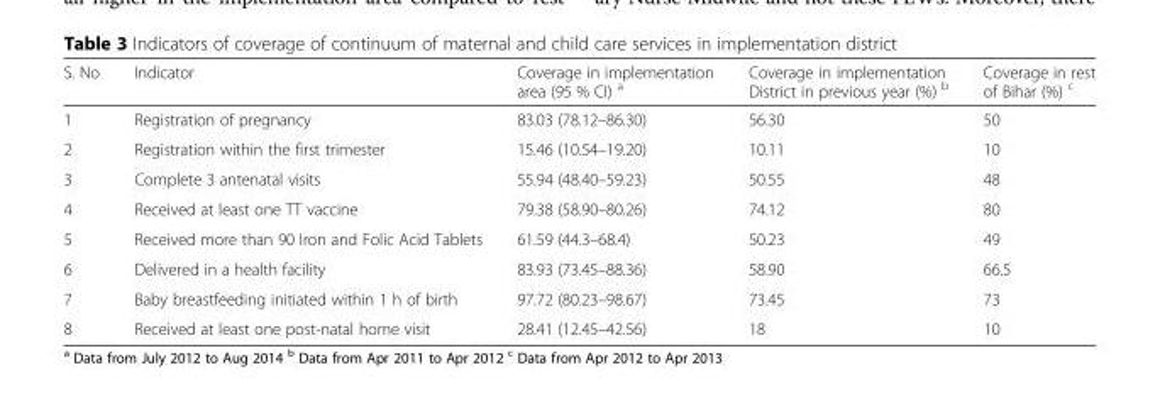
<table><thead><tr><td>S. No</td><td>Indicator</td><td>Coverage in implementation area (95 % CI) <sup>a</sup></td><td>Coverage in implementation District in previous year (%) <sup>b</sup></td><td>Coverage in rest of Bihar (%) <sup>c</sup></td></tr></thead><tbody><tr><td>1</td><td>Registration of pregnancy</td><td>83.03 (78.12–86.30)</td><td>56.30</td><td>50</td></tr><tr><td>2</td><td>Registration within the first trimester</td><td>15.46 (10.54–19.20)</td><td>10.11</td><td>10</td></tr><tr><td>3</td><td>Complete 3 antenatal visits</td><td>55.94 (48.40–59.23)</td><td>50.55</td><td>48</td></tr><tr><td>4</td><td>Received at least one TT vaccine</td><td>79.38 (58.90–80.26)</td><td>74.12</td><td>80</td></tr><tr><td>5</td><td>Received more than 90 Iron and Folic Acid Tablets</td><td>61.59 (44.3–68.4)</td><td>50.23</td><td>49</td></tr><tr><td>6</td><td>Delivered in a health facility</td><td>83.93 (73.45–88.36)</td><td>58.90</td><td>66.5</td></tr><tr><td>7</td><td>Baby breastfeeding initiated within 1 h of birth</td><td>97.72 (80.23–98.67)</td><td>73.45</td><td>73</td></tr><tr><td>8</td><td>Received at least one post-natal home visit</td><td>28.41 (12.45–42.56)</td><td>18</td><td>10</td></tr></tbody></table>